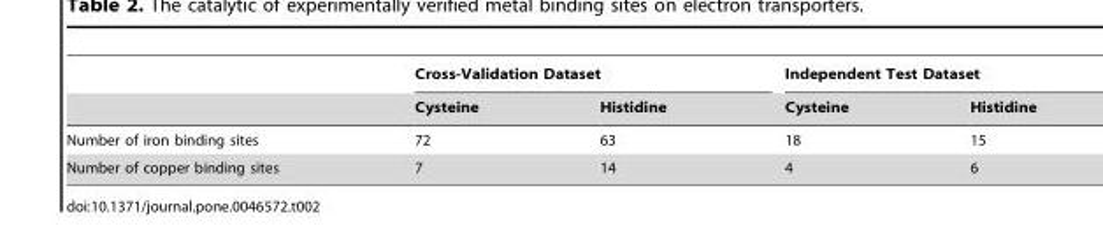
<table><thead><tr><td rowspan="2"></td><td colspan="2">Cross-Validation Dataset</td><td colspan="2">Independent Test Dataset</td></tr><tr><td>Cysteine</td><td>Histidine</td><td>Cysteine</td><td>Histidine</td></tr></thead><tbody><tr><td>Number of iron binding sites</td><td>72</td><td>63</td><td>18</td><td>15</td></tr><tr><td>Number of copper binding sites</td><td>7</td><td>14</td><td>4</td><td>6</td></tr></tbody></table>